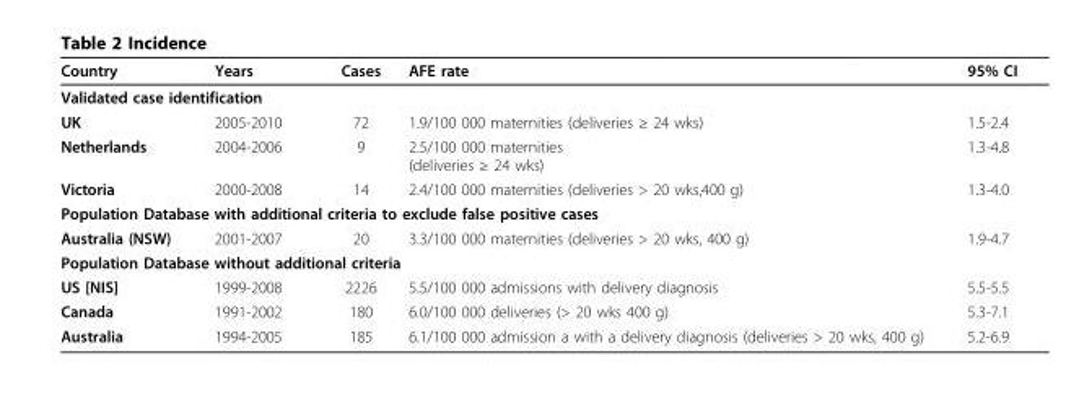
<table><thead><tr><td>Country</td><td>Years</td><td>Cases</td><td>AFE rate</td><td>95% CI</td></tr></thead><tbody><tr><td colspan="5">Validated case identification</td></tr><tr><td>UK</td><td>2005-2010</td><td>72</td><td>1.9/100 000 maternities (deliveries ≥ 24 wks)</td><td>1.5-2.4</td></tr><tr><td>Netherlands</td><td>2004-2006</td><td>9</td><td>2.5/100 000 maternities (deliveries ≥ 24 wks)</td><td>1.3-4.8</td></tr><tr><td>Victoria</td><td>2000-2008</td><td>14</td><td>2.4/100 000 maternities (deliveries &gt; 20 wks,400 g)</td><td>1.3-4.0</td></tr><tr><td colspan="5">Population Database with additional criteria to exclude false positive cases</td></tr><tr><td>Australia (NSW)</td><td>2001-2007</td><td>20</td><td>3.3/100 000 maternities (deliveries &gt; 20 wks, 400 g)</td><td>1.9-4.7</td></tr><tr><td colspan="5">Population Database without additional criteria</td></tr><tr><td>US [NIS]</td><td>1999-2008</td><td>2226</td><td>5.5/100 000 admissions with delivery diagnosis</td><td>5.5-5.5</td></tr><tr><td>Canada</td><td>1991-2002</td><td>180</td><td>6.0/100 000 deliveries (&gt; 20 wks 400 g)</td><td>5.3-7.1</td></tr><tr><td>Australia</td><td>1994-2005</td><td>185</td><td>6.1/100 000 admission a with a delivery diagnosis (deliveries &gt; 20 wks, 400 g)</td><td>5.2-6.9</td></tr></tbody></table>